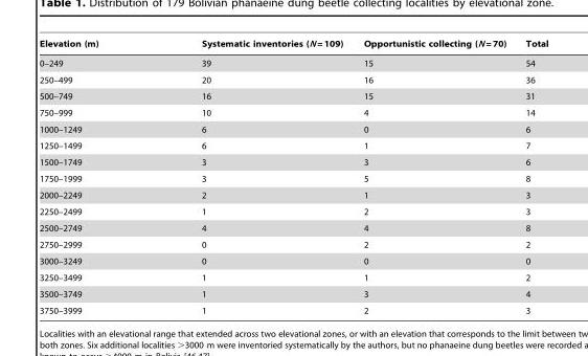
<table><thead><tr><td>Elevation (m)</td><td>Systematic inventories (N = 109)</td><td>Opportunistic collecting (N = 70)</td><td>Total</td></tr></thead><tbody><tr><td>0–249</td><td>39</td><td>15</td><td>54</td></tr><tr><td>250–499</td><td>20</td><td>16</td><td>36</td></tr><tr><td>500–749</td><td>16</td><td>15</td><td>31</td></tr><tr><td>750–999</td><td>10</td><td>4</td><td>14</td></tr><tr><td>1000–1249</td><td>6</td><td>0</td><td>6</td></tr><tr><td>1250–1499</td><td>6</td><td>1</td><td>7</td></tr><tr><td>1500–1749</td><td>3</td><td>3</td><td>6</td></tr><tr><td>1750–1999</td><td>3</td><td>5</td><td>8</td></tr><tr><td>2000–2249</td><td>2</td><td>1</td><td>3</td></tr><tr><td>2250–2499</td><td>1</td><td>2</td><td>3</td></tr><tr><td>2500–2749</td><td>4</td><td>4</td><td>8</td></tr><tr><td>2750–2999</td><td>0</td><td>2</td><td>2</td></tr><tr><td>3000–3249</td><td>0</td><td>0</td><td>0</td></tr><tr><td>3250–3499</td><td>1</td><td>1</td><td>2</td></tr><tr><td>3500–3749</td><td>1</td><td>3</td><td>4</td></tr><tr><td>3750–3999</td><td>1</td><td>2</td><td>3</td></tr></tbody></table>